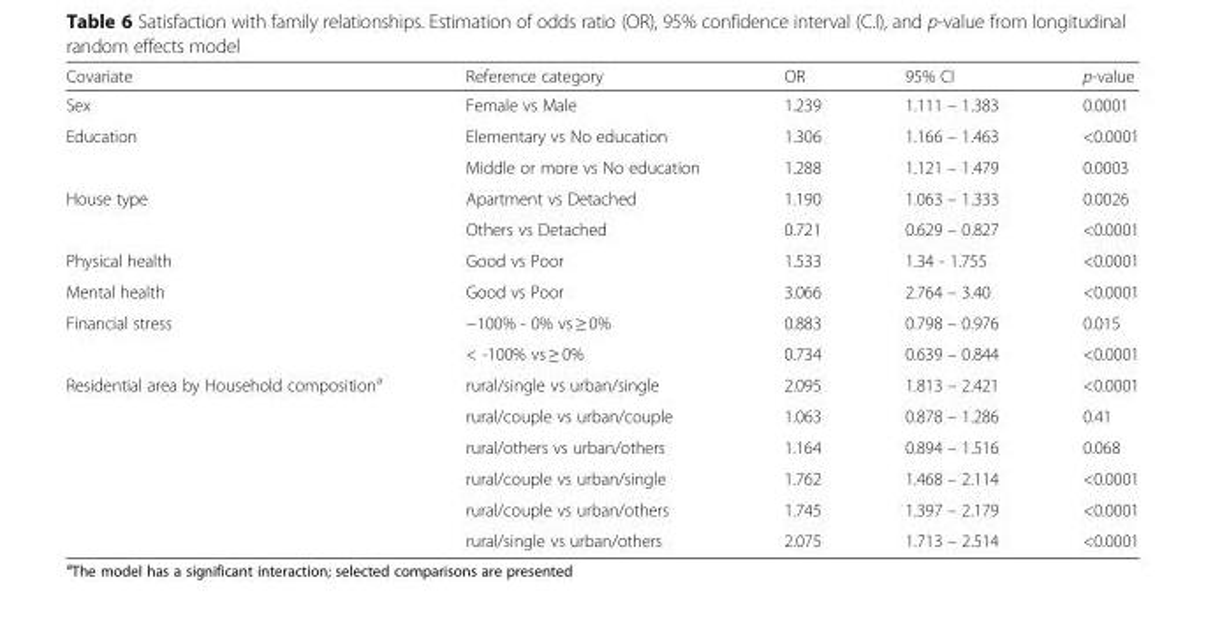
<table><thead><tr><td>Covariate</td><td>Reference category</td><td>OR</td><td>95% CI</td><td>p-value</td></tr></thead><tbody><tr><td>Sex</td><td>Female vs Male</td><td>1.239</td><td>1.111 – 1.383</td><td>0.0001</td></tr><tr><td rowspan="2">Education</td><td>Elementary vs No education</td><td>1.306</td><td>1.166 – 1.463</td><td>&lt;0.0001</td></tr><tr><td>Middle or more vs No education</td><td>1.288</td><td>1.121 – 1.479</td><td>0.0003</td></tr><tr><td rowspan="2">House type</td><td>Apartment vs Detached</td><td>1.190</td><td>1.063 – 1.333</td><td>0.0026</td></tr><tr><td>Others vs Detached</td><td>0.721</td><td>0.629 – 0.827</td><td>&lt;0.0001</td></tr><tr><td>Physical health</td><td>Good vs Poor</td><td>1.533</td><td>1.34 - 1.755</td><td>&lt;0.0001</td></tr><tr><td>Mental health</td><td>Good vs Poor</td><td>3.066</td><td>2.764 – 3.40</td><td>&lt;0.0001</td></tr><tr><td rowspan="2">Financial stress</td><td>−100% - 0% vs ≥ 0%</td><td>0.883</td><td>0.798 – 0.976</td><td>0.015</td></tr><tr><td>&lt; -100% vs ≥ 0%</td><td>0.734</td><td>0.639 – 0.844</td><td>&lt;0.0001</td></tr><tr><td rowspan="6">Residential area by Household composition<sup>a</sup></td><td>rural/single vs urban/single</td><td>2.095</td><td>1.813 – 2.421</td><td>&lt;0.0001</td></tr><tr><td>rural/couple vs urban/couple</td><td>1.063</td><td>0.878 – 1.286</td><td>0.41</td></tr><tr><td>rural/others vs urban/others</td><td>1.164</td><td>0.894 – 1.516</td><td>0.068</td></tr><tr><td>rural/couple vs urban/single</td><td>1.762</td><td>1.468 – 2.114</td><td>&lt;0.0001</td></tr><tr><td>rural/couple vs urban/others</td><td>1.745</td><td>1.397 – 2.179</td><td>&lt;0.0001</td></tr><tr><td>rural/single vs urban/others</td><td>2.075</td><td>1.713 – 2.514</td><td>&lt;0.0001</td></tr></tbody></table>